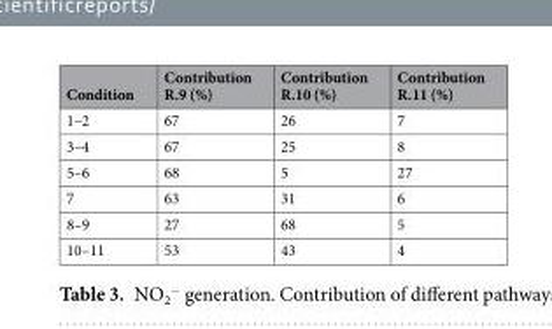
<table><thead><tr><td>Condition</td><td>Contribution R.9 (%)</td><td>Contribution R.10 (%)</td><td>Contribution R.11 (%)</td></tr></thead><tbody><tr><td>1–2</td><td>67</td><td>26</td><td>7</td></tr><tr><td>3–4</td><td>67</td><td>25</td><td>8</td></tr><tr><td>5–6</td><td>68</td><td>5</td><td>27</td></tr><tr><td>7</td><td>63</td><td>31</td><td>6</td></tr><tr><td>8–9</td><td>27</td><td>68</td><td>5</td></tr><tr><td>10–11</td><td>53</td><td>43</td><td>4</td></tr></tbody></table>